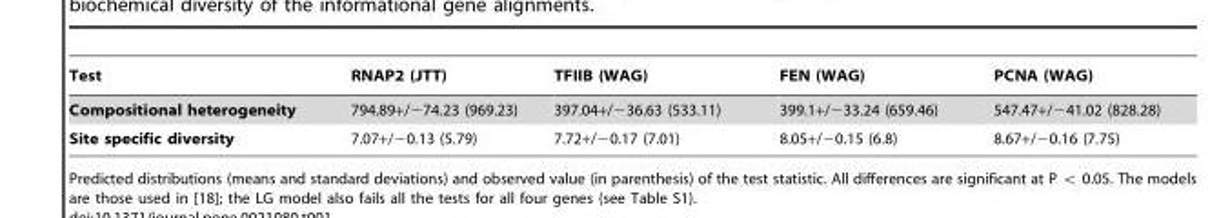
<table><thead><tr><td>Test</td><td>RNAP2 (JTT)</td><td>TFIIB (WAG)</td><td>FEN (WAG)</td><td>PCNA (WAG)</td></tr></thead><tbody><tr><td>Compositional heterogeneity</td><td>794.89+/−74.23 (969.23)</td><td>397.04+/−36.63 (533.11)</td><td>399.1+/−33.24 (659.46)</td><td>547.47+/−41.02 (828.28)</td></tr><tr><td>Site specific diversity</td><td>7.07+/−0.13 (5.79)</td><td>7.72+/−0.17 (7.01)</td><td>8.05+/−0.15 (6.8)</td><td>8.67+/−0.16 (7.75)</td></tr></tbody></table>